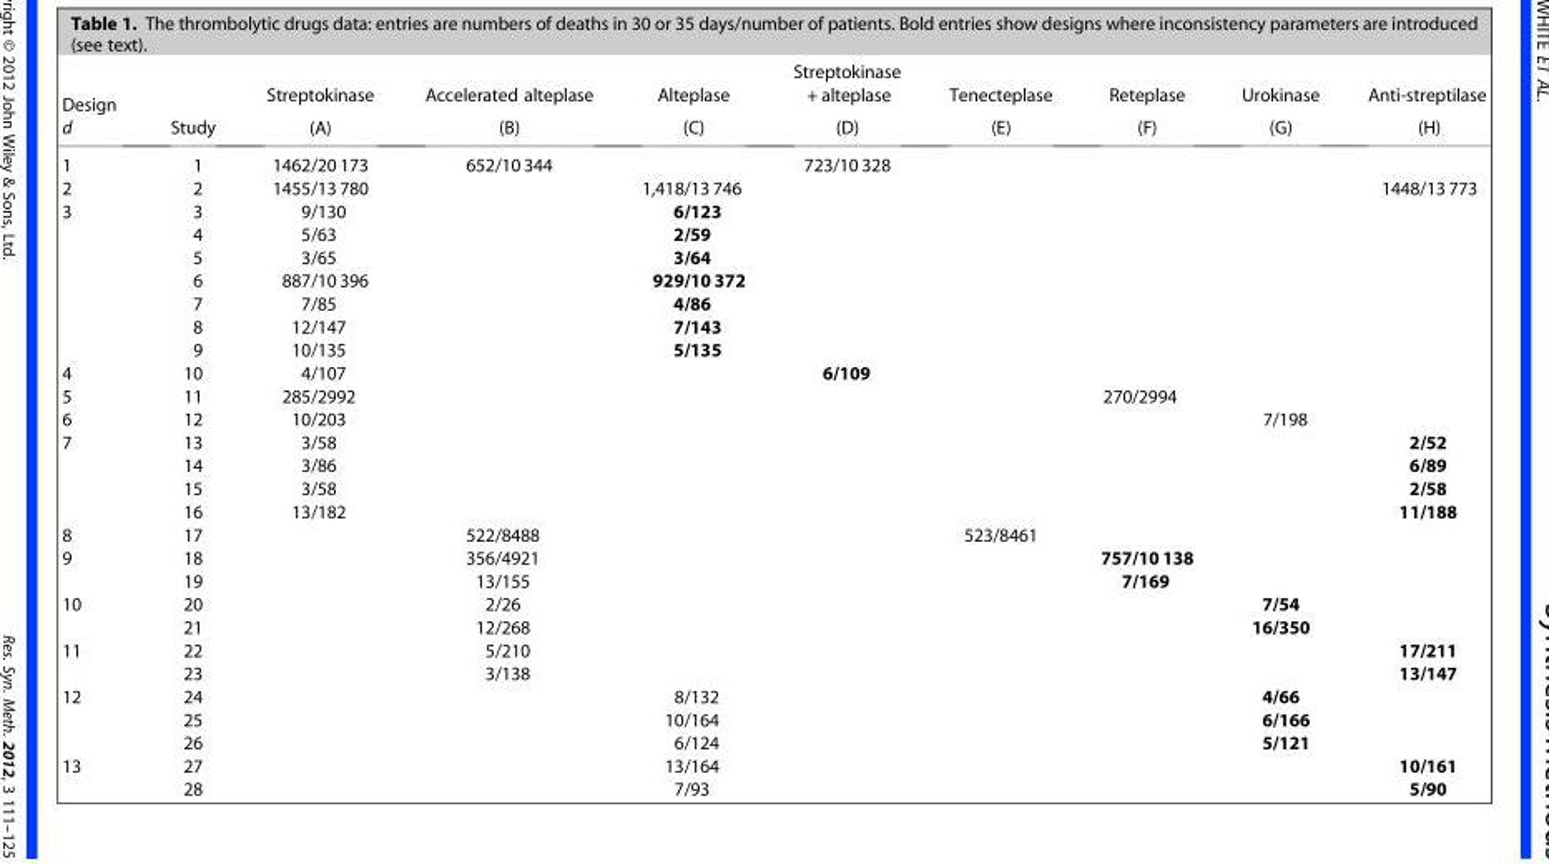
<table><thead><tr><td>Design d</td><td>Study</td><td>Streptokinase (A)</td><td>Accelerated alteplase (B)</td><td>Alteplase (C)</td><td>Streptokinase + alteplase (D)</td><td>Tenecteplase (E)</td><td>Reteplase (F)</td><td>Urokinase (G)</td><td>Anti-streptilase (H)</td></tr></thead><tbody><tr><td>1</td><td>1</td><td>1462/20 173</td><td>652/10 344</td><td></td><td>723/10 328</td><td></td><td></td><td></td><td></td></tr><tr><td>2</td><td>2</td><td>1455/13 780</td><td></td><td>1,418/13 746</td><td></td><td></td><td></td><td></td><td>1448/13 773</td></tr><tr><td rowspan="7">3</td><td>3</td><td>9/130</td><td></td><td>6/123</td><td></td><td></td><td></td><td></td><td></td></tr><tr><td>4</td><td>5/63</td><td></td><td>2/59</td><td></td><td></td><td></td><td></td><td></td></tr><tr><td>5</td><td>3/65</td><td></td><td>3/64</td><td></td><td></td><td></td><td></td><td></td></tr><tr><td>6</td><td>887/10 396</td><td></td><td>929/10 372</td><td></td><td></td><td></td><td></td><td></td></tr><tr><td>7</td><td>7/85</td><td></td><td>4/86</td><td></td><td></td><td></td><td></td><td></td></tr><tr><td>8</td><td>12/147</td><td></td><td>7/143</td><td></td><td></td><td></td><td></td><td></td></tr><tr><td>9</td><td>10/135</td><td></td><td>5/135</td><td></td><td></td><td></td><td></td><td></td></tr><tr><td>4</td><td>10</td><td>4/107</td><td></td><td></td><td>6/109</td><td></td><td></td><td></td><td></td></tr><tr><td>5</td><td>11</td><td>285/2992</td><td></td><td></td><td></td><td></td><td>270/2994</td><td></td><td></td></tr><tr><td>6</td><td>12</td><td>10/203</td><td></td><td></td><td></td><td></td><td></td><td>7/198</td><td></td></tr><tr><td rowspan="4">7</td><td>13</td><td>3/58</td><td></td><td></td><td></td><td></td><td></td><td></td><td>2/52</td></tr><tr><td>14</td><td>3/86</td><td></td><td></td><td></td><td></td><td></td><td></td><td>6/89</td></tr><tr><td>15</td><td>3/58</td><td></td><td></td><td></td><td></td><td></td><td></td><td>2/58</td></tr><tr><td>16</td><td>13/182</td><td></td><td></td><td></td><td></td><td></td><td></td><td>11/188</td></tr><tr><td>8</td><td>17</td><td></td><td>522/8488</td><td></td><td></td><td>523/8461</td><td></td><td></td><td></td></tr><tr><td rowspan="2">9</td><td>18</td><td></td><td>356/4921</td><td></td><td></td><td></td><td>757/10 138</td><td></td><td></td></tr><tr><td>19</td><td></td><td>13/155</td><td></td><td></td><td></td><td>7/169</td><td></td><td></td></tr><tr><td rowspan="2">10</td><td>20</td><td></td><td>2/26</td><td></td><td></td><td></td><td></td><td>7/54</td><td></td></tr><tr><td>21</td><td></td><td>12/268</td><td></td><td></td><td></td><td></td><td>16/350</td><td></td></tr><tr><td rowspan="2">11</td><td>22</td><td></td><td>5/210</td><td></td><td></td><td></td><td></td><td></td><td>17/211</td></tr><tr><td>23</td><td></td><td>3/138</td><td></td><td></td><td></td><td></td><td></td><td>13/147</td></tr><tr><td rowspan="3">12</td><td>24</td><td></td><td></td><td>8/132</td><td></td><td></td><td></td><td>4/66</td><td></td></tr><tr><td>25</td><td></td><td></td><td>10/164</td><td></td><td></td><td></td><td>6/166</td><td></td></tr><tr><td>26</td><td></td><td></td><td>6/124</td><td></td><td></td><td></td><td>5/121</td><td></td></tr><tr><td rowspan="2">13</td><td>27</td><td></td><td></td><td>13/164</td><td></td><td></td><td></td><td></td><td>10/161</td></tr><tr><td>28</td><td></td><td></td><td>7/93</td><td></td><td></td><td></td><td></td><td>5/90</td></tr></tbody></table>